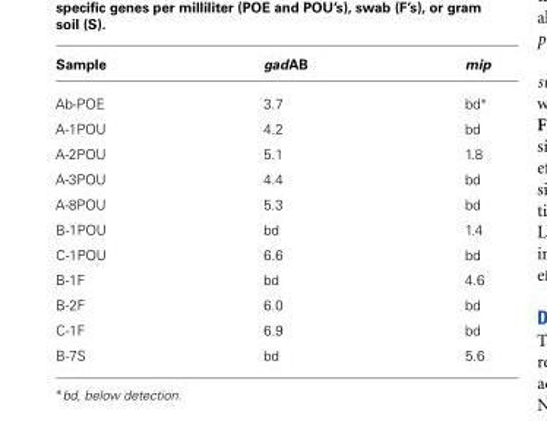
<table><thead><tr><td>Sample</td><td>gadAB</td><td>mip</td></tr></thead><tbody><tr><td>Ab-POE</td><td>3.7</td><td>bd∗</td></tr><tr><td>A-1POU</td><td>4.2</td><td>bd</td></tr><tr><td>A-2POU</td><td>5.1</td><td>1.8</td></tr><tr><td>A-3POU</td><td>4.4</td><td>bd</td></tr><tr><td>A-8POU</td><td>5.3</td><td>bd</td></tr><tr><td>B-1POU</td><td>bd</td><td>1.4</td></tr><tr><td>C-1POU</td><td>6.6</td><td>bd</td></tr><tr><td>B-1F</td><td>bd</td><td>4.6</td></tr><tr><td>B-2F</td><td>6.0</td><td>bd</td></tr><tr><td>C-1F</td><td>6.9</td><td>bd</td></tr><tr><td>B-7S</td><td>bd</td><td>5.6</td></tr></tbody></table>